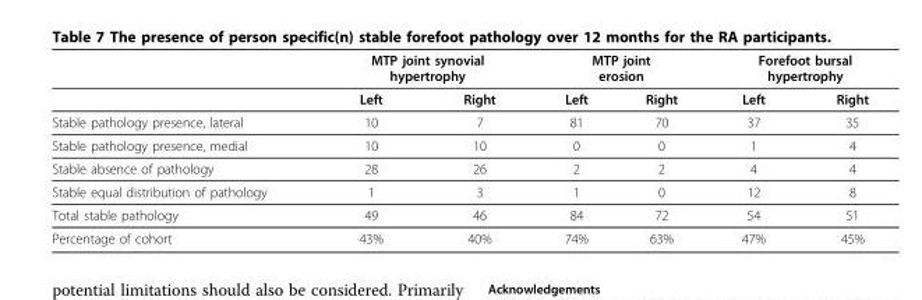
<table><thead><tr><td rowspan="2"></td><td colspan="2">MTP joint synovial hypertrophy</td><td colspan="2">MTP joint erosion</td><td colspan="2">Forefoot bursal hypertrophy</td></tr><tr><td>Left</td><td>Right</td><td>Left</td><td>Right</td><td>Left</td><td>Right</td></tr></thead><tbody><tr><td>Stable pathology presence, lateral</td><td>10</td><td>7</td><td>81</td><td>70</td><td>37</td><td>35</td></tr><tr><td>Stable pathology presence, medial</td><td>10</td><td>10</td><td>0</td><td>0</td><td>1</td><td>4</td></tr><tr><td>Stable absence of pathology</td><td>28</td><td>26</td><td>2</td><td>2</td><td>4</td><td>4</td></tr><tr><td>Stable equal distribution of pathology</td><td>1</td><td>3</td><td>1</td><td>0</td><td>12</td><td>8</td></tr><tr><td>Total stable pathology</td><td>49</td><td>46</td><td>84</td><td>72</td><td>54</td><td>51</td></tr><tr><td>Percentage of cohort</td><td>43%</td><td>40%</td><td>74%</td><td>63%</td><td>47%</td><td>45%</td></tr></tbody></table>